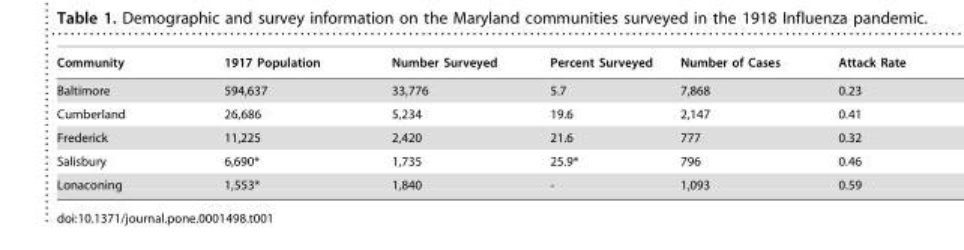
<table><thead><tr><td>Community</td><td>1917 Population</td><td>Number Surveyed</td><td>Percent Surveyed</td><td>Number of Cases</td><td>Attack Rate</td></tr></thead><tbody><tr><td>Baltimore</td><td>594,637</td><td>33,776</td><td>5.7</td><td>7,868</td><td>0.23</td></tr><tr><td>Cumberland</td><td>26,686</td><td>5,234</td><td>19.6</td><td>2,147</td><td>0.41</td></tr><tr><td>Frederick</td><td>11,225</td><td>2,420</td><td>21.6</td><td>777</td><td>0.32</td></tr><tr><td>Salisbury</td><td>6,690*</td><td>1,735</td><td>25.9*</td><td>796</td><td>0.46</td></tr><tr><td>Lonaconing</td><td>1,553*</td><td>1,840</td><td>-</td><td>1,093</td><td>0.59</td></tr></tbody></table>